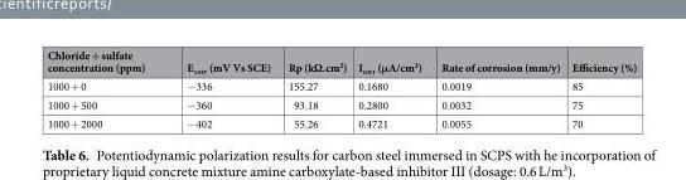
<table><thead><tr><td>Chloride + sulfate concentration (ppm)</td><td>E<sub>corr</sub> (mV Vs SCE)</td><td>Rp (kΩ.cm<sup>2</sup>)</td><td>I<sub>corr</sub> (μA/cm<sup>2</sup>)</td><td>Rate of corrosion (mm/y)</td><td>Efficiency (%)</td></tr></thead><tbody><tr><td>1000 + 0</td><td>−336</td><td>155.27</td><td>0.1680</td><td>0.0019</td><td>85</td></tr><tr><td>1000 + 500</td><td>−360</td><td>93.18</td><td>0.2800</td><td>0.0032</td><td>75</td></tr><tr><td>1000 + 2000</td><td>−402</td><td>55.26</td><td>0.4721</td><td>0.0055</td><td>70</td></tr></tbody></table>